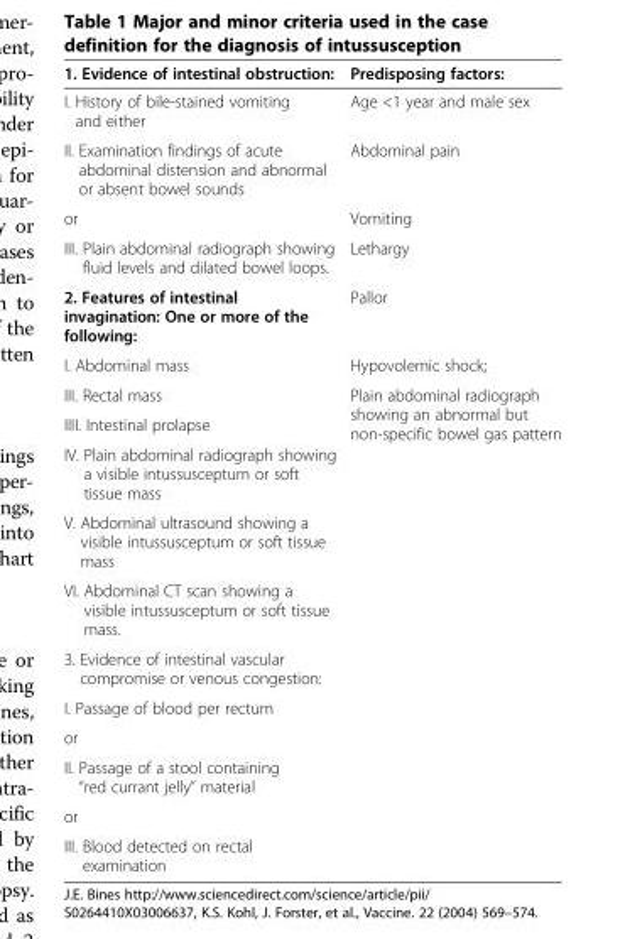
<table><thead><tr><td>1. Evidence of intestinal obstruction:</td><td>Predisposing factors:</td></tr></thead><tbody><tr><td>I. History of bile-stained vomiting and either</td><td>Age &lt;1 year and male sex</td></tr><tr><td>II. Examination findings of acute abdominal distension and abnormal or absent bowel sounds</td><td>Abdominal pain</td></tr><tr><td>or</td><td>Vomiting</td></tr><tr><td>III. Plain abdominal radiograph showing fluid levels and dilated bowel loops.</td><td>Lethargy</td></tr><tr><td>2. Features of intestinal invagination: One or more of the following:</td><td>Pallor</td></tr><tr><td>I. Abdominal mass</td><td>Hypovolemic shock;</td></tr><tr><td>III. Rectal mass</td><td rowspan="10">Plain abdominal radiograph showing an abnormal but non-specific bowel gas pattern</td></tr><tr><td>IIII. Intestinal prolapse</td></tr><tr><td>IV. Plain abdominal radiograph showing a visible intussusceptum or soft tissue mass</td></tr><tr><td>V. Abdominal ultrasound showing a visible intussusceptum or soft tissue mass</td></tr><tr><td>VI. Abdominal CT scan showing a visible intussusceptum or soft tissue mass.</td></tr><tr><td>3. Evidence of intestinal vascular compromise or venous congestion:</td></tr><tr><td>I. Passage of blood per rectum</td></tr><tr><td>or</td></tr><tr><td>II. Passage of a stool containing “red currant jelly” material</td></tr><tr><td>or</td></tr><tr><td>III. Blood detected on rectal examination</td><td></td></tr></tbody></table>